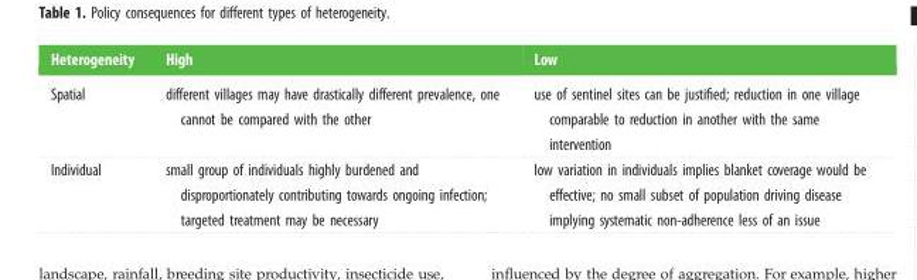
<table><thead><tr><td>Heterogeneity</td><td>High</td><td>Low</td></tr></thead><tbody><tr><td>Spatial</td><td>different villages may have drastically different prevalence, one cannot be compared with the other</td><td>use of sentinel sites can be justified; reduction in one village comparable to reduction in another with the same intervention</td></tr><tr><td>Individual</td><td>small group of individuals highly burdened and disproportionately contributing towards ongoing infection; targeted treatment may be necessary</td><td>low variation in individuals implies blanket coverage would be effective; no small subset of population driving disease implying systematic non-adherence less of an issue</td></tr></tbody></table>